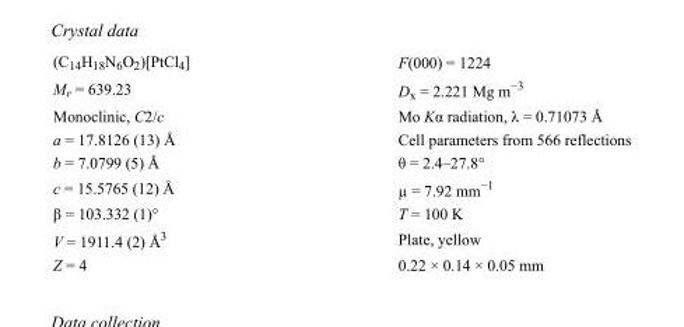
<table><tbody><tr><td>(C<sub>14</sub>H<sub>18</sub>N<sub>6</sub>O<sub>2</sub>)[PtCl<sub>4</sub>]</td><td>F(000) = 1224</td></tr><tr><td>M<sub>r</sub> = 639.23</td><td>D<sub>x</sub> = 2.221 Mg m<sup>−3</sup></td></tr><tr><td>Monoclinic, C2/c</td><td>Mo Kα radiation, λ = 0.71073 Å</td></tr><tr><td>a = 17.8126 (13) Å</td><td>Cell parameters from 566 reflections</td></tr><tr><td>b = 7.0799 (5) Å</td><td>θ = 2.4–27.8°</td></tr><tr><td>c = 15.5765 (12) Å</td><td>µ = 7.92 mm<sup>−1</sup></td></tr><tr><td>β = 103.332 (1)°</td><td>T = 100 K</td></tr><tr><td>V = 1911.4 (2) Å<sup>3</sup></td><td>Plate, yellow</td></tr><tr><td>Z = 4</td><td>0.22 × 0.14 × 0.05 mm</td></tr></tbody></table>